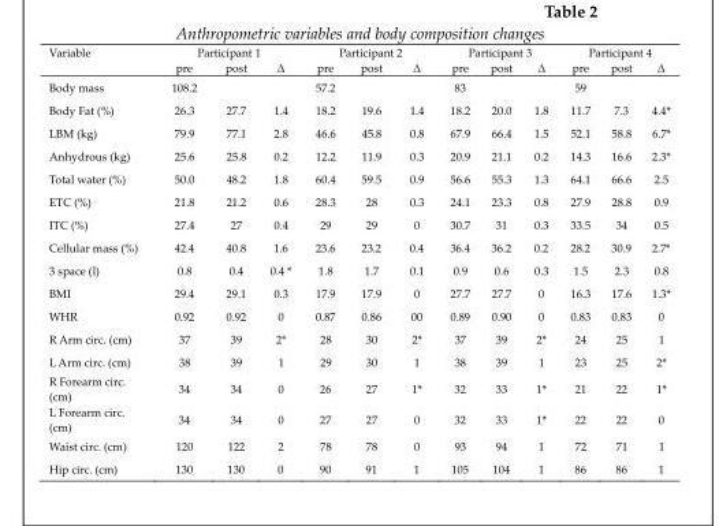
<table><thead><tr><td rowspan="2">Variable</td><td colspan="3">Participant 1</td><td colspan="3">Participant 2</td><td colspan="3">Participant 3</td><td colspan="3">Participant 4</td></tr><tr><td>pre</td><td>post</td><td>∆</td><td>pre</td><td>post</td><td>∆</td><td>pre</td><td>post</td><td>∆</td><td>pre</td><td>post</td><td>∆</td></tr></thead><tbody><tr><td>Body mass</td><td>108.2</td><td></td><td></td><td>57.2</td><td></td><td></td><td>83</td><td></td><td></td><td>59</td><td></td><td></td></tr><tr><td>Body Fat (%)</td><td>26.3</td><td>27.7</td><td>1.4</td><td>18.2</td><td>19.6</td><td>1.4</td><td>18.2</td><td>20.0</td><td>1.8</td><td>11.7</td><td>7.3</td><td>4.4*</td></tr><tr><td>LBM (kg)</td><td>79.9</td><td>77.1</td><td>2.8</td><td>46.6</td><td>45.8</td><td>0.8</td><td>67.9</td><td>66.4</td><td>1.5</td><td>52.1</td><td>58.8</td><td>6.7*</td></tr><tr><td>Anhydrous (kg)</td><td>25.6</td><td>25.8</td><td>0.2</td><td>12.2</td><td>11.9</td><td>0.3</td><td>20.9</td><td>21.1</td><td>0.2</td><td>14.3</td><td>16.6</td><td>2.3*</td></tr><tr><td>Total water (%)</td><td>50.0</td><td>48.2</td><td>1.8</td><td>60.4</td><td>59.5</td><td>0.9</td><td>56.6</td><td>55.3</td><td>1.3</td><td>64.1</td><td>66.6</td><td>2.5</td></tr><tr><td>ETC (%)</td><td>21.8</td><td>21.2</td><td>0.6</td><td>28.3</td><td>28</td><td>0.3</td><td>24.1</td><td>23.3</td><td>0.8</td><td>27.9</td><td>28.8</td><td>0.9</td></tr><tr><td>ITC (%)</td><td>27.4</td><td>27</td><td>0.4</td><td>29</td><td>29</td><td>0</td><td>30.7</td><td>31</td><td>0.3</td><td>33.5</td><td>34</td><td>0.5</td></tr><tr><td>Cellular mass (%)</td><td>42.4</td><td>40.8</td><td>1.6</td><td>23.6</td><td>23.2</td><td>0.4</td><td>36.4</td><td>36.2</td><td>0.2</td><td>28.2</td><td>30.9</td><td>2.7*</td></tr><tr><td>3 space (l)</td><td>0.8</td><td>0.4</td><td>0.4 *</td><td>1.8</td><td>1.7</td><td>0.1</td><td>0.9</td><td>0.6</td><td>0.3</td><td>1.5</td><td>2.3</td><td>0.8</td></tr><tr><td>BMI</td><td>29.4</td><td>29.1</td><td>0.3</td><td>17.9</td><td>17.9</td><td>0</td><td>27.7</td><td>27.7</td><td>0</td><td>16.3</td><td>17.6</td><td>1.3*</td></tr><tr><td>WHR</td><td>0.92</td><td>0.92</td><td>0</td><td>0.87</td><td>0.86</td><td>00</td><td>0.89</td><td>0.90</td><td>0</td><td>0.83</td><td>0.83</td><td>0</td></tr><tr><td>R Arm circ. (cm)</td><td>37</td><td>39</td><td>2*</td><td>28</td><td>30</td><td>2*</td><td>37</td><td>39</td><td>2*</td><td>24</td><td>25</td><td>1</td></tr><tr><td>L Arm circ. (cm)</td><td>38</td><td>39</td><td>1</td><td>29</td><td>30</td><td>1</td><td>38</td><td>39</td><td>1</td><td>23</td><td>25</td><td>2*</td></tr><tr><td>R Forearm circ. (cm)</td><td>34</td><td>34</td><td>0</td><td>26</td><td>27</td><td>1*</td><td>32</td><td>33</td><td>1*</td><td>21</td><td>22</td><td>1*</td></tr><tr><td>L Forearm circ. (cm)</td><td>34</td><td>34</td><td>0</td><td>27</td><td>27</td><td>0</td><td>32</td><td>33</td><td>1*</td><td>22</td><td>22</td><td>0</td></tr><tr><td>Waist circ. (cm)</td><td>120</td><td>122</td><td>2</td><td>78</td><td>78</td><td>0</td><td>93</td><td>94</td><td>1</td><td>72</td><td>71</td><td>1</td></tr><tr><td>Hip circ. (cm)</td><td>130</td><td>130</td><td>0</td><td>90</td><td>91</td><td>1</td><td>105</td><td>104</td><td>1</td><td>86</td><td>86</td><td>1</td></tr></tbody></table>